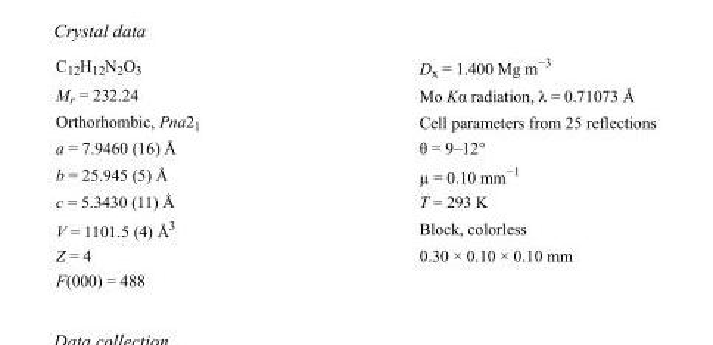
<table><tbody><tr><td>C<sub>12</sub>H<sub>12</sub>N<sub>2</sub>O<sub>3</sub></td><td>D<sub>x</sub> = 1.400 Mg m<sup>−3</sup></td></tr><tr><td>M<sub>r</sub> = 232.24</td><td>Mo Kα radiation, λ = 0.71073 Å</td></tr><tr><td>Orthorhombic, Pna2<sub>1</sub></td><td>Cell parameters from 25 reflections</td></tr><tr><td>a = 7.9460 (16) Å</td><td>θ = 9–12°</td></tr><tr><td>b = 25.945 (5) Å</td><td>µ = 0.10 mm<sup>−1</sup></td></tr><tr><td>c = 5.3430 (11) Å</td><td>T = 293 K</td></tr><tr><td>V = 1101.5 (4) Å<sup>3</sup></td><td>Block, colorless</td></tr><tr><td>Z = 4</td><td>0.30 × 0.10 × 0.10 mm</td></tr><tr><td>F(000) = 488</td><td></td></tr></tbody></table>